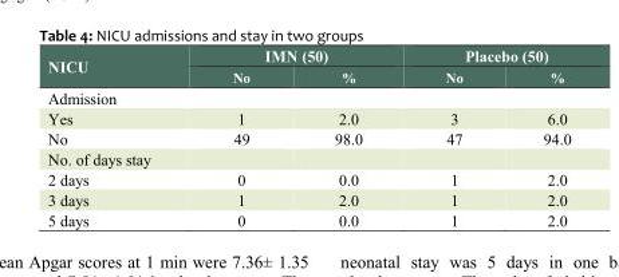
<table><thead><tr><td rowspan="2">NICU</td><td colspan="2">IMN (50)</td><td colspan="2">Placebo (50)</td></tr><tr><td>No</td><td>%</td><td>No</td><td>%</td></tr></thead><tbody><tr><td colspan="5">Admission</td></tr><tr><td>Yes</td><td>1</td><td>2.0</td><td>3</td><td>6.0</td></tr><tr><td>No</td><td>49</td><td>98.0</td><td>47</td><td>94.0</td></tr><tr><td colspan="5">No. of days stay</td></tr><tr><td>2 days</td><td>0</td><td>0.0</td><td>1</td><td>2.0</td></tr><tr><td>3 days</td><td>1</td><td>2.0</td><td>1</td><td>2.0</td></tr><tr><td>5 days</td><td>0</td><td>0.0</td><td>1</td><td>2.0</td></tr></tbody></table>